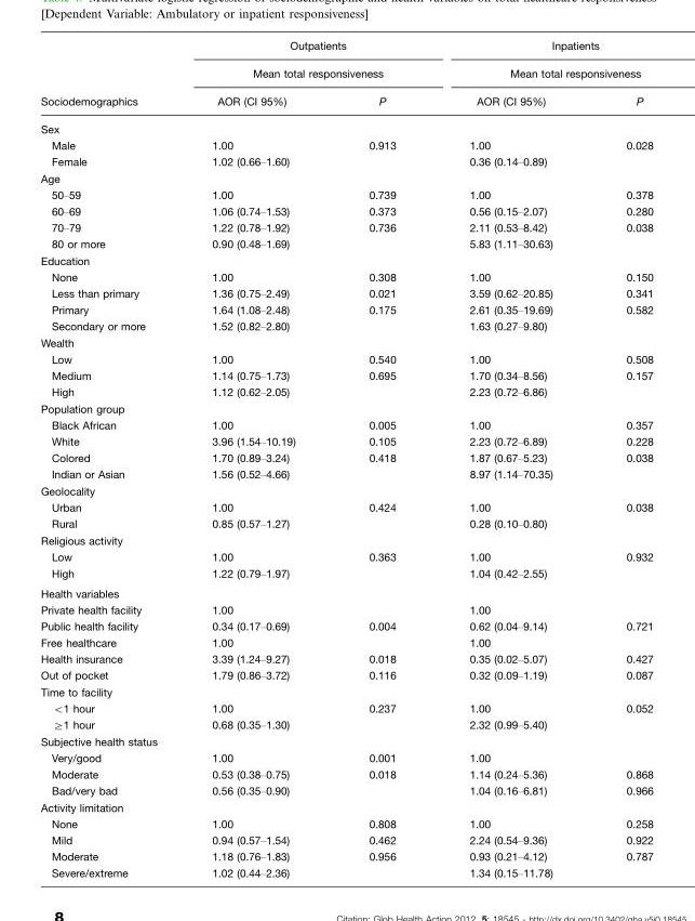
<table><thead><tr><td rowspan="3">Sociodemographics</td><td rowspan="2" colspan="2">Outpatients Mean total responsiveness</td><td rowspan="2" colspan="2">Inpatients Mean total responsiveness</td></tr><tr></tr><tr><td>AOR (CI 95%)</td><td>P</td><td>AOR (CI 95%)</td><td>P</td></tr></thead><tbody><tr><td colspan="5">Sex</td></tr><tr><td>Male</td><td>1.00</td><td>0.913</td><td>1.00</td><td>0.028</td></tr><tr><td>Female</td><td>1.02 (0.66–1.60)</td><td></td><td>0.36 (0.14–0.89)</td><td></td></tr><tr><td colspan="5">Age</td></tr><tr><td>50–59</td><td>1.00</td><td>0.739</td><td>1.00</td><td>0.378</td></tr><tr><td>60–69</td><td>1.06 (0.74–1.53)</td><td>0.373</td><td>0.56 (0.15–2.07)</td><td>0.280</td></tr><tr><td>70–79</td><td>1.22 (0.78–1.92)</td><td>0.736</td><td>2.11 (0.53–8.42)</td><td>0.038</td></tr><tr><td>80 or more</td><td>0.90 (0.48–1.69)</td><td></td><td>5.83 (1.11–30.63)</td><td></td></tr><tr><td colspan="5">Education</td></tr><tr><td>None</td><td>1.00</td><td>0.308</td><td>1.00</td><td>0.150</td></tr><tr><td>Less than primary</td><td>1.36 (0.75–2.49)</td><td>0.021</td><td>3.59 (0.62–20.85)</td><td>0.341</td></tr><tr><td>Primary</td><td>1.64 (1.08–2.48)</td><td>0.175</td><td>2.61 (0.35–19.69)</td><td>0.582</td></tr><tr><td>Secondary or more</td><td>1.52 (0.82–2.80)</td><td></td><td>1.63 (0.27–9.80)</td><td></td></tr><tr><td colspan="5">Wealth</td></tr><tr><td>Low</td><td>1.00</td><td>0.540</td><td>1.00</td><td>0.508</td></tr><tr><td>Medium</td><td>1.14 (0.75–1.73)</td><td>0.695</td><td>1.70 (0.34–8.56)</td><td>0.157</td></tr><tr><td>High</td><td>1.12 (0.62–2.05)</td><td></td><td>2.23 (0.72–6.86)</td><td></td></tr><tr><td colspan="5">Population group</td></tr><tr><td>Black African</td><td>1.00</td><td>0.005</td><td>1.00</td><td>0.357</td></tr><tr><td>White</td><td>3.96 (1.54–10.19)</td><td>0.105</td><td>2.23 (0.72–6.89)</td><td>0.228</td></tr><tr><td>Colored</td><td>1.70 (0.89–3.24)</td><td>0.418</td><td>1.87 (0.67–5.23)</td><td>0.038</td></tr><tr><td>Indian or Asian</td><td>1.56 (0.52–4.66)</td><td></td><td>8.97 (1.14–70.35)</td><td></td></tr><tr><td colspan="5">Geolocality</td></tr><tr><td>Urban</td><td>1.00</td><td>0.424</td><td>1.00</td><td>0.038</td></tr><tr><td>Rural</td><td>0.85 (0.57–1.27)</td><td></td><td>0.28 (0.10–0.80)</td><td></td></tr><tr><td colspan="5">Religious activity</td></tr><tr><td>Low</td><td>1.00</td><td>0.363</td><td>1.00</td><td>0.932</td></tr><tr><td>High</td><td>1.22 (0.79–1.97)</td><td></td><td>1.04 (0.42–2.55)</td><td></td></tr><tr><td colspan="5">Health variables</td></tr><tr><td>Private health facility</td><td>1.00</td><td></td><td>1.00</td><td></td></tr><tr><td>Public health facility</td><td>0.34 (0.17–0.69)</td><td>0.004</td><td>0.62 (0.04–9.14)</td><td>0.721</td></tr><tr><td>Free healthcare</td><td>1.00</td><td></td><td>1.00</td><td></td></tr><tr><td>Health insurance</td><td>3.39 (1.24–9.27)</td><td>0.018</td><td>0.35 (0.02–5.07)</td><td>0.427</td></tr><tr><td>Out of pocket</td><td>1.79 (0.86–3.72)</td><td>0.116</td><td>0.32 (0.09–1.19)</td><td>0.087</td></tr><tr><td colspan="5">Time to facility</td></tr><tr><td>&lt;1 hour</td><td>1.00</td><td>0.237</td><td>1.00</td><td>0.052</td></tr><tr><td>≥1 hour</td><td>0.68 (0.35–1.30)</td><td></td><td>2.32 (0.99–5.40)</td><td></td></tr><tr><td colspan="5">Subjective health status</td></tr><tr><td>Very/good</td><td>1.00</td><td>0.001</td><td>1.00</td><td></td></tr><tr><td>Moderate</td><td>0.53 (0.38–0.75)</td><td>0.018</td><td>1.14 (0.24–5.36)</td><td>0.868</td></tr><tr><td>Bad/very bad</td><td>0.56 (0.35–0.90)</td><td></td><td>1.04 (0.16–6.81)</td><td>0.966</td></tr><tr><td colspan="5">Activity limitation</td></tr><tr><td>None</td><td>1.00</td><td>0.808</td><td>1.00</td><td>0.258</td></tr><tr><td>Mild</td><td>0.94 (0.57–1.54)</td><td>0.462</td><td>2.24 (0.54–9.36)</td><td>0.922</td></tr><tr><td>Moderate</td><td>1.18 (0.76–1.83)</td><td>0.956</td><td>0.93 (0.21–4.12)</td><td>0.787</td></tr><tr><td>Severe/extreme</td><td>1.02 (0.44–2.36)</td><td></td><td>1.34 (0.15–11.78)</td><td></td></tr></tbody></table>